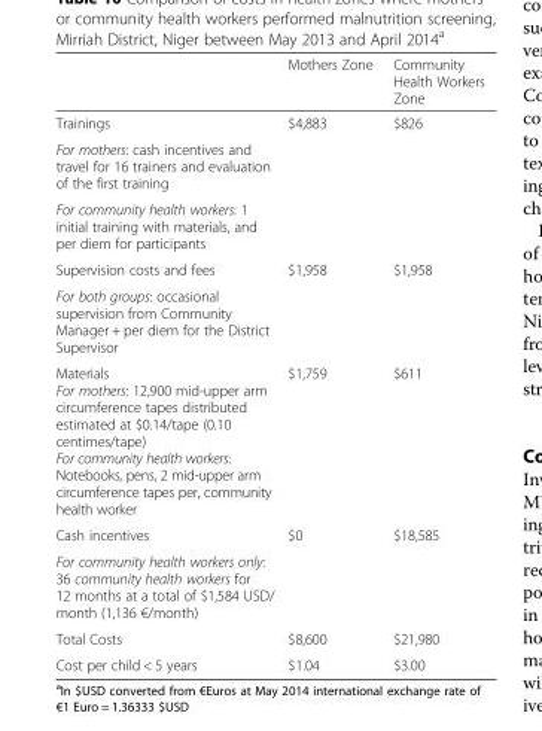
<table><thead><tr><td></td><td>Mothers Zone</td><td>Community Health Workers Zone</td></tr></thead><tbody><tr><td>Trainings</td><td>$4,883</td><td>$826</td></tr><tr><td colspan="3">For mothers: cash incentives and travel for 16 trainers and evaluation of the first training</td></tr><tr><td colspan="3">For community health workers: 1 initial training with materials, and per diem for participants</td></tr><tr><td>Supervision costs and fees</td><td>$1,958</td><td>$1,958</td></tr><tr><td colspan="3">For both groups: occasional supervision from Community Manager + per diem for the District Supervisor</td></tr><tr><td>Materials For mothers: 12,900 mid-upper arm circumference tapes distributed estimated at $0.14/tape (0.10 centimes/tape) For community health workers: Notebooks, pens, 2 mid-upper arm circumference tapes per, community health worker</td><td>$1,759</td><td>$611</td></tr><tr><td>Cash incentives</td><td>$0</td><td>$18,585</td></tr><tr><td colspan="3">For community health workers only: 36 community health workers for 12 months at a total of $1,584 USD/ month (1,136 €/month)</td></tr><tr><td>Total Costs</td><td>$8,600</td><td>$21,980</td></tr><tr><td>Cost per child &lt; 5 years</td><td>$1.04</td><td>$3.00</td></tr></tbody></table>